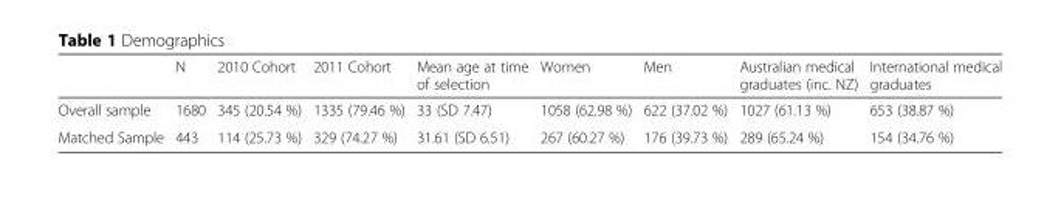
<table><thead><tr><td></td><td>N</td><td>2010 Cohort</td><td>2011 Cohort</td><td>Mean age at time of selection</td><td>Women</td><td>Men</td><td>Australian medical graduates (inc. NZ)</td><td>International medical graduates</td></tr></thead><tbody><tr><td>Overall sample</td><td>1680</td><td>345 (20.54 %)</td><td>1335 (79.46 %)</td><td>33 (SD 7.47)</td><td>1058 (62.98 %)</td><td>622 (37.02 %)</td><td>1027 (61.13 %)</td><td>653 (38.87 %)</td></tr><tr><td>Matched Sample</td><td>443</td><td>114 (25.73 %)</td><td>329 (74.27 %)</td><td>31.61 (SD 6.51)</td><td>267 (60.27 %)</td><td>176 (39.73 %)</td><td>289 (65.24 %)</td><td>154 (34.76 %)</td></tr></tbody></table>